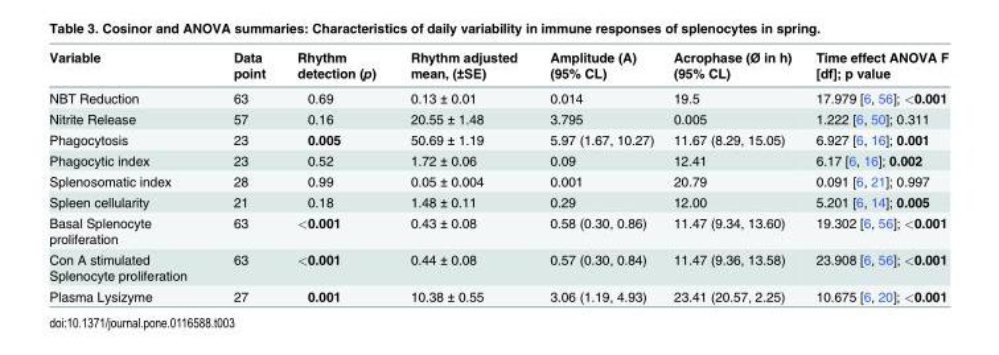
<table><thead><tr><td>Variable</td><td>Data point</td><td>Rhythm detection (p)</td><td>Rhythm adjusted mean, (±SE)</td><td>Amplitude (A) (95% CL)</td><td>Acrophase (Ø in h) (95% CL)</td><td>Time effect ANOVA F [df]; p value</td></tr></thead><tbody><tr><td>NBT Reduction</td><td>63</td><td>0.69</td><td>0.13 ± 0.01</td><td>0.014</td><td>19.5</td><td>17.979 [6, 56]; &lt;0.001</td></tr><tr><td>Nitrite Release</td><td>57</td><td>0.16</td><td>20.55 ± 1.48</td><td>3.795</td><td>0.005</td><td>1.222 [6, 50]; 0.311</td></tr><tr><td>Phagocytosis</td><td>23</td><td>0.005</td><td>50.69 ± 1.19</td><td>5.97 (1.67, 10.27)</td><td>11.67 (8.29, 15.05)</td><td>6.927 [6, 16]; 0.001</td></tr><tr><td>Phagocytic index</td><td>23</td><td>0.52</td><td>1.72 ± 0.06</td><td>0.09</td><td>12.41</td><td>6.17 [6, 16]; 0.002</td></tr><tr><td>Splenosomatic index</td><td>28</td><td>0.99</td><td>0.05 ± 0.004</td><td>0.001</td><td>20.79</td><td>0.091 [6, 21]; 0.997</td></tr><tr><td>Spleen cellularity</td><td>21</td><td>0.18</td><td>1.48 ± 0.11</td><td>0.29</td><td>12.00</td><td>5.201 [6, 14]; 0.005</td></tr><tr><td>Basal Splenocyte proliferation</td><td>63</td><td>&lt;0.001</td><td>0.43 ± 0.08</td><td>0.58 (0.30, 0.86)</td><td>11.47 (9.34, 13.60)</td><td>19.302 [6, 56]; &lt;0.001</td></tr><tr><td>Con A stimulated Splenocyte proliferation</td><td>63</td><td>&lt;0.001</td><td>0.44 ± 0.08</td><td>0.57 (0.30, 0.84)</td><td>11.47 (9.36, 13.58)</td><td>23.908 [6, 56]; &lt;0.001</td></tr><tr><td>Plasma Lysizyme</td><td>27</td><td>0.001</td><td>10.38 ± 0.55</td><td>3.06 (1.19, 4.93)</td><td>23.41 (20.57, 2.25)</td><td>10.675 [6, 20]; &lt;0.001</td></tr></tbody></table>